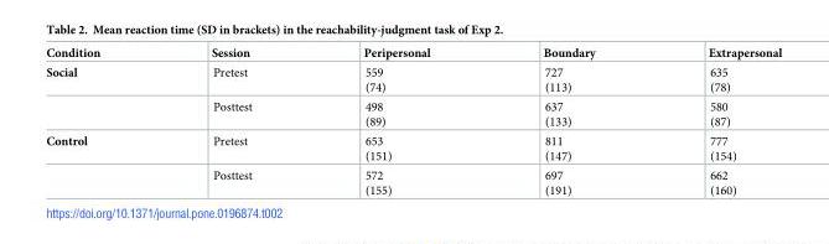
<table><thead><tr><td>Condition</td><td>Session</td><td>Peripersonal</td><td>Boundary</td><td>Extrapersonal</td></tr></thead><tbody><tr><td rowspan="2">Social</td><td>Pretest</td><td>559 (74)</td><td>727 (113)</td><td>635 (78)</td></tr><tr><td>Posttest</td><td>498 (89)</td><td>637 (133)</td><td>580 (87)</td></tr><tr><td rowspan="2">Control</td><td>Pretest</td><td>653 (151)</td><td>811 (147)</td><td>777 (154)</td></tr><tr><td>Posttest</td><td>572 (155)</td><td>697 (191)</td><td>662 (160)</td></tr></tbody></table>